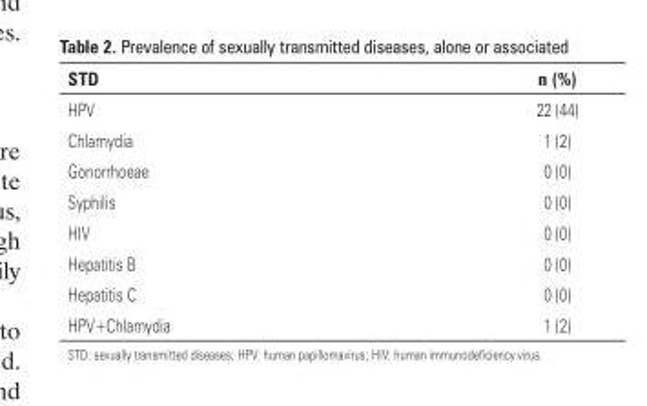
<table><thead><tr><td>STD</td><td>n (%)</td></tr></thead><tbody><tr><td>HPV</td><td>22 (44)</td></tr><tr><td>Chlamydia</td><td>1 (2)</td></tr><tr><td>Gonorrhoeae</td><td>0 (0)</td></tr><tr><td>Syphilis</td><td>0 (0)</td></tr><tr><td>HIV</td><td>0 (0)</td></tr><tr><td>Hepatitis B</td><td>0 (0)</td></tr><tr><td>Hepatitis C</td><td>0 (0)</td></tr><tr><td>HPV+Chlamydia</td><td>1 (2)</td></tr></tbody></table>